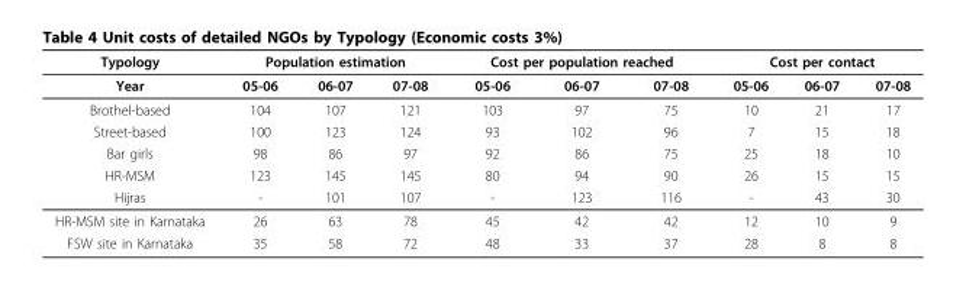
<table><thead><tr><td rowspan="2">Typology Year</td><td colspan="3">Population estimation</td><td colspan="3">Cost per population reached</td><td colspan="3">Cost per contact</td></tr><tr><td>05-06</td><td>06-07</td><td>07-08</td><td>05-06</td><td>06-07</td><td>07-08</td><td>05-06</td><td>06-07</td><td>07-08</td></tr></thead><tbody><tr><td>Brothel-based</td><td>104</td><td>107</td><td>121</td><td>103</td><td>97</td><td>75</td><td>10</td><td>21</td><td>17</td></tr><tr><td>Street-based</td><td>100</td><td>123</td><td>124</td><td>93</td><td>102</td><td>96</td><td>7</td><td>15</td><td>18</td></tr><tr><td>Bar girls</td><td>98</td><td>86</td><td>97</td><td>92</td><td>86</td><td>75</td><td>25</td><td>18</td><td>10</td></tr><tr><td>HR-MSM</td><td>123</td><td>145</td><td>145</td><td>80</td><td>94</td><td>90</td><td>26</td><td>15</td><td>15</td></tr><tr><td>Hijras</td><td>-</td><td>101</td><td>107</td><td>-</td><td>123</td><td>116</td><td>-</td><td>43</td><td>30</td></tr><tr><td>HR-MSM site in Karnataka</td><td>26</td><td>63</td><td>78</td><td>45</td><td>42</td><td>42</td><td>12</td><td>10</td><td>9</td></tr><tr><td>FSW site in Karnataka</td><td>35</td><td>58</td><td>72</td><td>48</td><td>33</td><td>37</td><td>28</td><td>8</td><td>8</td></tr></tbody></table>